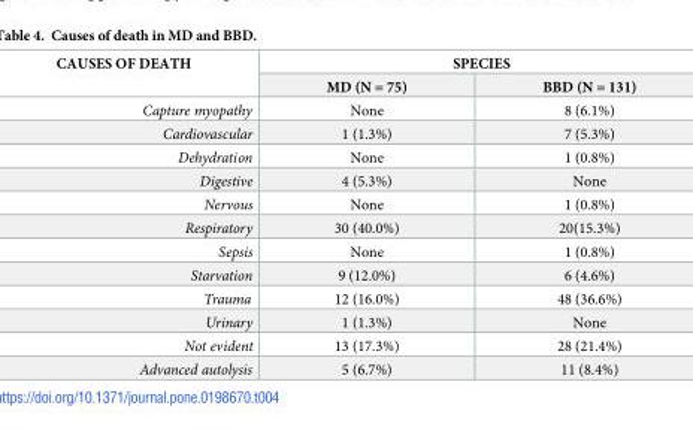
<table><thead><tr><td rowspan="2">CAUSES OF DEATH</td><td colspan="2">SPECIES</td></tr><tr><td>MD (N = 75)</td><td>BBD (N = 131)</td></tr></thead><tbody><tr><td>Capture myopathy</td><td>None</td><td>8 (6.1%)</td></tr><tr><td>Cardiovascular</td><td>1 (1.3%)</td><td>7 (5.3%)</td></tr><tr><td>Dehydration</td><td>None</td><td>1 (0.8%)</td></tr><tr><td>Digestive</td><td>4 (5.3%)</td><td>None</td></tr><tr><td>Nervous</td><td>None</td><td>1 (0.8%)</td></tr><tr><td>Respiratory</td><td>30 (40.0%)</td><td>20(15.3%)</td></tr><tr><td>Sepsis</td><td>None</td><td>1 (0.8%)</td></tr><tr><td>Starvation</td><td>9 (12.0%)</td><td>6 (4.6%)</td></tr><tr><td>Trauma</td><td>12 (16.0%)</td><td>48 (36.6%)</td></tr><tr><td>Urinary</td><td>1 (1.3%)</td><td>None</td></tr><tr><td>Not evident</td><td>13 (17.3%)</td><td>28 (21.4%)</td></tr><tr><td>Advanced autolysis</td><td>5 (6.7%)</td><td>11 (8.4%)</td></tr></tbody></table>